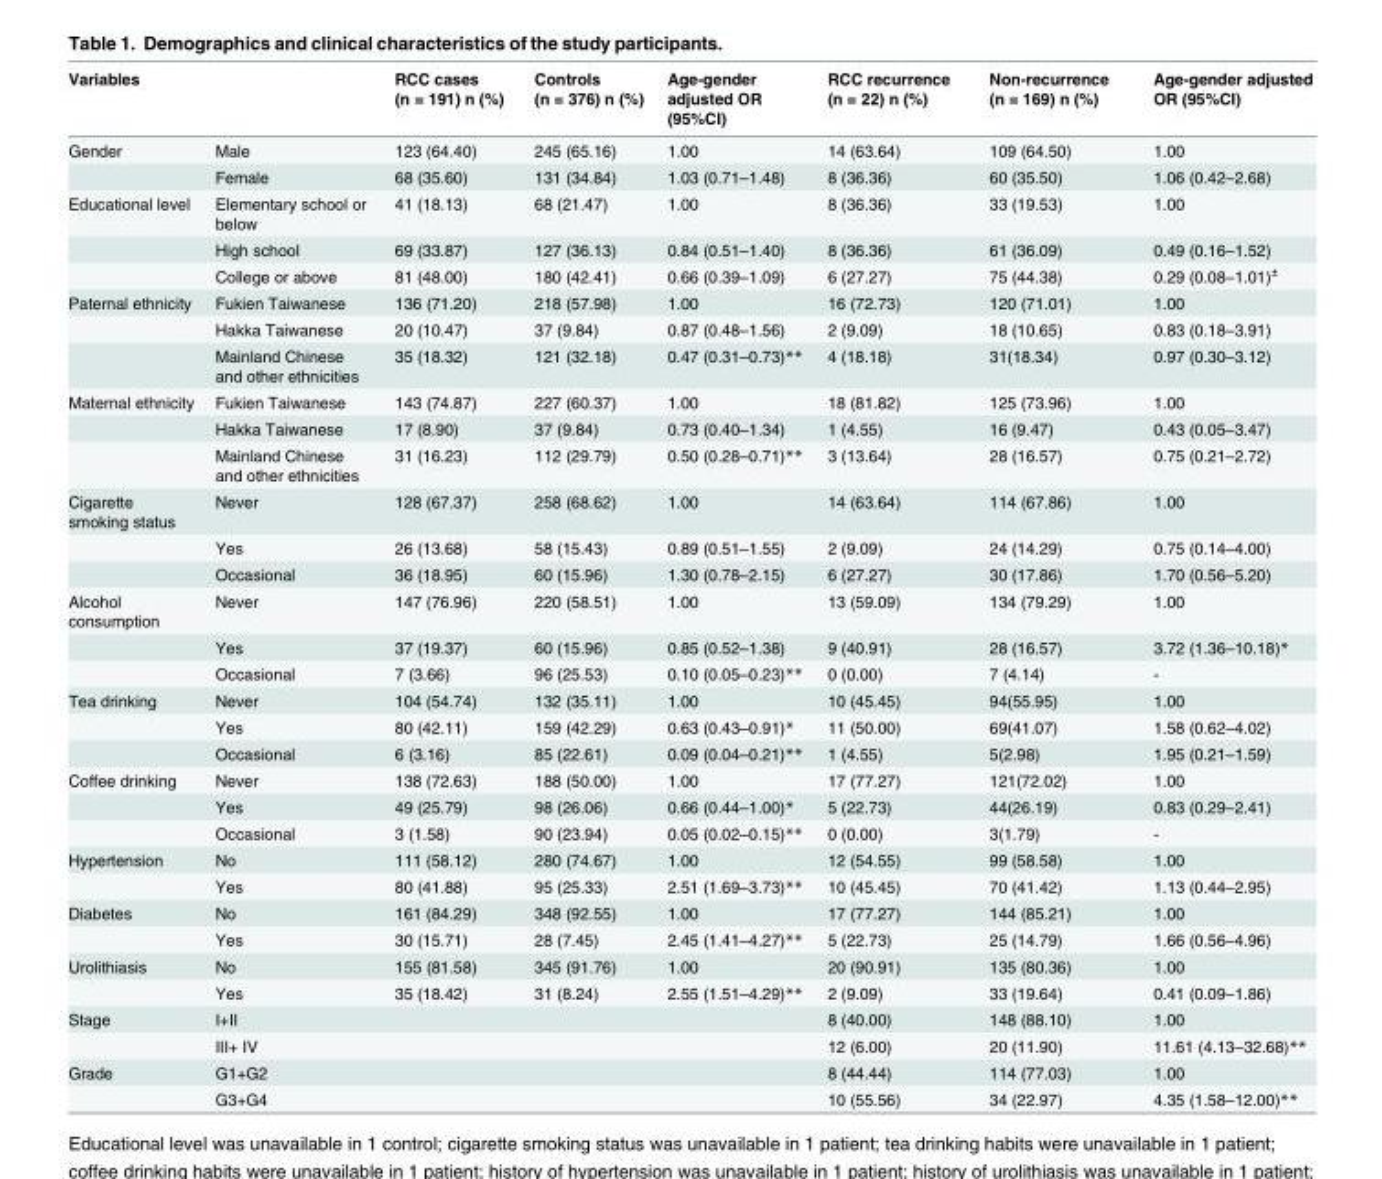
<table><thead><tr><td colspan="2">Variables</td><td rowspan="2">RCC cases (n = 191) n (%) 123 (64.40)</td><td rowspan="2">Controls (n = 376) n (%) 245 (65.16)</td><td rowspan="2">Age-gender adjusted OR (95%CI) 1.00</td><td rowspan="2">RCC recurrence (n = 22) n (%) 14 (63.64)</td><td rowspan="2">Non-recurrence (n = 169) n (%) 109 (64.50)</td><td rowspan="2">Age-gender adjusted OR (95%CI) 1.00</td></tr><tr><td>Gender</td><td>Male</td></tr></thead><tbody><tr><td></td><td>Female</td><td>68 (35.60)</td><td>131 (34.84)</td><td>1.03 (0.71–1.48)</td><td>8 (36.36)</td><td>60 (35.50)</td><td>1.06 (0.42–2.68)</td></tr><tr><td rowspan="3">Educational level</td><td>Elementary school or below</td><td>41 (18.13)</td><td>68 (21.47)</td><td>1.00</td><td>8 (36.36)</td><td>33 (19.53)</td><td>1.00</td></tr><tr><td>High school</td><td>69 (33.87)</td><td>127 (36.13)</td><td>0.84 (0.51–1.40)</td><td>8 (36.36)</td><td>61 (36.09)</td><td>0.49 (0.16–1.52)</td></tr><tr><td>College or above</td><td>81 (48.00)</td><td>180 (42.41)</td><td>0.66 (0.39–1.09)</td><td>6 (27.27)</td><td>75 (44.38)</td><td>0.29 (0.08–1.01)<sup>±</sup></td></tr><tr><td rowspan="3">Paternal ethnicity</td><td>Fukien Taiwanese</td><td>136 (71.20)</td><td>218 (57.98)</td><td>1.00</td><td>16 (72.73)</td><td>120 (71.01)</td><td>1.00</td></tr><tr><td>Hakka Taiwanese</td><td>20 (10.47)</td><td>37 (9.84)</td><td>0.87 (0.48–1.56)</td><td>2 (9.09)</td><td>18 (10.65)</td><td>0.83 (0.18–3.91)</td></tr><tr><td>Mainland Chinese and other ethnicities</td><td>35 (18.32)</td><td>121 (32.18)</td><td>0.47 (0.31–0.73)**</td><td>4 (18.18)</td><td>31(18.34)</td><td>0.97 (0.30–3.12)</td></tr><tr><td rowspan="3">Maternal ethnicity</td><td>Fukien Taiwanese</td><td>143 (74.87)</td><td>227 (60.37)</td><td>1.00</td><td>18 (81.82)</td><td>125 (73.96)</td><td>1.00</td></tr><tr><td>Hakka Taiwanese</td><td>17 (8.90)</td><td>37 (9.84)</td><td>0.73 (0.40–1.34)</td><td>1 (4.55)</td><td>16 (9.47)</td><td>0.43 (0.05–3.47)</td></tr><tr><td>Mainland Chinese and other ethnicities</td><td>31 (16.23)</td><td>112 (29.79)</td><td>0.50 (0.28–0.71)**</td><td>3 (13.64)</td><td>28 (16.57)</td><td>0.75 (0.21–2.72)</td></tr><tr><td rowspan="3">Cigarette smoking status</td><td>Never</td><td>128 (67.37)</td><td>258 (68.62)</td><td>1.00</td><td>14 (63.64)</td><td>114 (67.86)</td><td>1.00</td></tr><tr><td>Yes</td><td>26 (13.68)</td><td>58 (15.43)</td><td>0.89 (0.51–1.55)</td><td>2 (9.09)</td><td>24 (14.29)</td><td>0.75 (0.14–4.00)</td></tr><tr><td>Occasional</td><td>36 (18.95)</td><td>60 (15.96)</td><td>1.30 (0.78–2.15)</td><td>6 (27.27)</td><td>30 (17.86)</td><td>1.70 (0.56–5.20)</td></tr><tr><td rowspan="3">Alcohol consumption</td><td>Never</td><td>147 (76.96)</td><td>220 (58.51)</td><td>1.00</td><td>13 (59.09)</td><td>134 (79.29)</td><td>1.00</td></tr><tr><td>Yes</td><td>37 (19.37)</td><td>60 (15.96)</td><td>0.85 (0.52–1.38)</td><td>9 (40.91)</td><td>28 (16.57)</td><td>3.72 (1.36–10.18)*</td></tr><tr><td>Occasional</td><td>7 (3.66)</td><td>96 (25.53)</td><td>0.10 (0.05–0.23)**</td><td>0 (0.00)</td><td>7 (4.14)</td><td>-</td></tr><tr><td rowspan="3">Tea drinking</td><td>Never</td><td>104 (54.74)</td><td>132 (35.11)</td><td>1.00</td><td>10 (45.45)</td><td>94(55.95)</td><td>1.00</td></tr><tr><td>Yes</td><td>80 (42.11)</td><td>159 (42.29)</td><td>0.63 (0.43–0.91)*</td><td>11 (50.00)</td><td>69(41.07)</td><td>1.58 (0.62–4.02)</td></tr><tr><td>Occasional</td><td>6 (3.16)</td><td>85 (22.61)</td><td>0.09 (0.04–0.21)**</td><td>1 (4.55)</td><td>5(2.98)</td><td>1.95 (0.21–1.59)</td></tr><tr><td rowspan="3">Coffee drinking</td><td>Never</td><td>138 (72.63)</td><td>188 (50.00)</td><td>1.00</td><td>17 (77.27)</td><td>121(72.02)</td><td>1.00</td></tr><tr><td>Yes</td><td>49 (25.79)</td><td>98 (26.06)</td><td>0.66 (0.44–1.00)*</td><td>5 (22.73)</td><td>44(26.19)</td><td>0.83 (0.29–2.41)</td></tr><tr><td>Occasional</td><td>3 (1.58)</td><td>90 (23.94)</td><td>0.05 (0.02–0.15)**</td><td>0 (0.00)</td><td>3(1.79)</td><td>-</td></tr><tr><td rowspan="2">Hypertension</td><td>No</td><td>111 (58.12)</td><td>280 (74.67)</td><td>1.00</td><td>12 (54.55)</td><td>99 (58.58)</td><td>1.00</td></tr><tr><td>Yes</td><td>80 (41.88)</td><td>95 (25.33)</td><td>2.51 (1.69–3.73)**</td><td>10 (45.45)</td><td>70 (41.42)</td><td>1.13 (0.44–2.95)</td></tr><tr><td rowspan="2">Diabetes</td><td>No</td><td>161 (84.29)</td><td>348 (92.55)</td><td>1.00</td><td>17 (77.27)</td><td>144 (85.21)</td><td>1.00</td></tr><tr><td>Yes</td><td>30 (15.71)</td><td>28 (7.45)</td><td>2.45 (1.41–4.27)**</td><td>5 (22.73)</td><td>25 (14.79)</td><td>1.66 (0.56–4.96)</td></tr><tr><td rowspan="2">Urolithiasis</td><td>No</td><td>155 (81.58)</td><td>345 (91.76)</td><td>1.00</td><td>20 (90.91)</td><td>135 (80.36)</td><td>1.00</td></tr><tr><td>Yes</td><td>35 (18.42)</td><td>31 (8.24)</td><td>2.55 (1.51–4.29)**</td><td>2 (9.09)</td><td>33 (19.64)</td><td>0.41 (0.09–1.86)</td></tr><tr><td rowspan="2">Stage</td><td>I+II</td><td></td><td></td><td></td><td>8 (40.00)</td><td>148 (88.10)</td><td>1.00</td></tr><tr><td>III+ IV</td><td></td><td></td><td></td><td>12 (6.00)</td><td>20 (11.90)</td><td>11.61 (4.13–32.68)**</td></tr><tr><td rowspan="2">Grade</td><td>G1+G2</td><td></td><td></td><td></td><td>8 (44.44)</td><td>114 (77.03)</td><td>1.00</td></tr><tr><td>G3+G4</td><td></td><td></td><td></td><td>10 (55.56)</td><td>34 (22.97)</td><td>4.35 (1.58–12.00)**</td></tr></tbody></table>